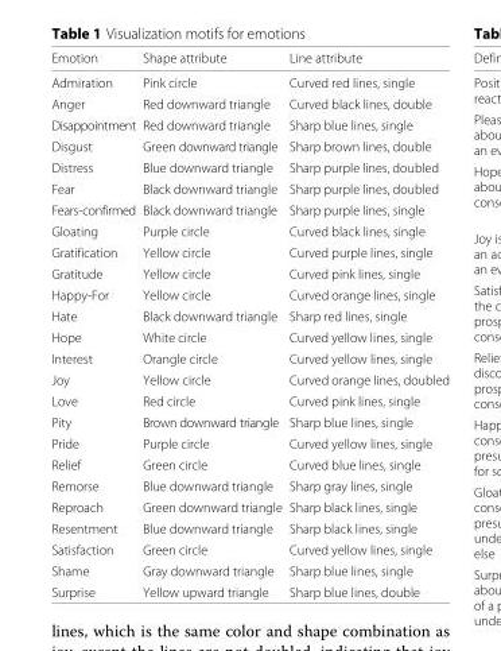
<table><thead><tr><td>Emotion</td><td>Shape attribute</td><td>Line attribute</td></tr></thead><tbody><tr><td>Admiration</td><td>Pink circle</td><td>Curved red lines, single</td></tr><tr><td>Anger</td><td>Red downward triangle</td><td>Curved black lines, double</td></tr><tr><td>Disappointment</td><td>Red downward triangle</td><td>Sharp blue lines, single</td></tr><tr><td>Disgust</td><td>Green downward triangle</td><td>Sharp brown lines, double</td></tr><tr><td>Distress</td><td>Blue downward triangle</td><td>Sharp purple lines, doubled</td></tr><tr><td>Fear</td><td>Black downward triangle</td><td>Sharp purple lines, doubled</td></tr><tr><td>Fears-confirmed</td><td>Black downward triangle</td><td>Sharp purple lines, single</td></tr><tr><td>Gloating</td><td>Purple circle</td><td>Curved black lines, single</td></tr><tr><td>Gratification</td><td>Yellow circle</td><td>Curved purple lines, single</td></tr><tr><td>Gratitude</td><td>Yellow circle</td><td>Curved pink lines, single</td></tr><tr><td>Happy-For</td><td>Yellow circle</td><td>Curved orange lines, single</td></tr><tr><td>Hate</td><td>Black downward triangle</td><td>Sharp red lines, single</td></tr><tr><td>Hope</td><td>White circle</td><td>Curved yellow lines, single</td></tr><tr><td>Interest</td><td>Orangle circle</td><td>Curved yellow lines, single</td></tr><tr><td>Joy</td><td>Yellow circle</td><td>Curved orange lines, doubled</td></tr><tr><td>Love</td><td>Red circle</td><td>Curved pink lines, single</td></tr><tr><td>Pity</td><td>Brown downward triangle</td><td>Sharp blue lines, single</td></tr><tr><td>Pride</td><td>Purple circle</td><td>Curved yellow lines, single</td></tr><tr><td>Relief</td><td>Green circle</td><td>Curved blue lines, single</td></tr><tr><td>Remorse</td><td>Blue downward triangle</td><td>Sharp gray lines, single</td></tr><tr><td>Reproach</td><td>Green downward triangle</td><td>Sharp black lines, single</td></tr><tr><td>Resentment</td><td>Blue downward triangle</td><td>Sharp black lines, single</td></tr><tr><td>Satisfaction</td><td>Green circle</td><td>Curved yellow lines, single</td></tr><tr><td>Shame</td><td>Gray downward triangle</td><td>Sharp blue lines, single</td></tr><tr><td>Surprise</td><td>Yellow upward triangle</td><td>Sharp blue lines, double</td></tr></tbody></table>